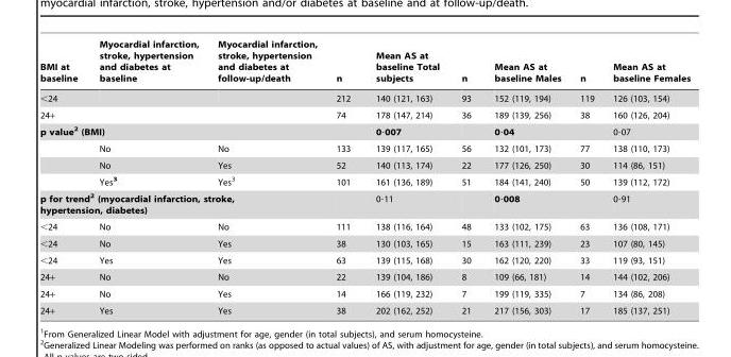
<table><thead><tr><td>BMI at baseline</td><td>Myocardial infarction, stroke, hypertension and diabetes at baseline</td><td>Myocardial infarction, stroke, hypertension and diabetes at follow-up/death</td><td>n</td><td>Mean AS at baseline Total subjects</td><td>n</td><td>Mean AS at baseline Males</td><td>n</td><td>Mean AS at baseline Females</td></tr></thead><tbody><tr><td>&lt;24</td><td></td><td></td><td>212</td><td>140 (121, 163)</td><td>93</td><td>152 (119, 194)</td><td>119</td><td>126 (103, 154)</td></tr><tr><td>24+</td><td></td><td></td><td>74</td><td>178 (147, 214)</td><td>36</td><td>189 (139, 256)</td><td>38</td><td>160 (126, 204)</td></tr><tr><td colspan="4">p value2 (BMI)</td><td>0·007</td><td></td><td>0·04</td><td></td><td>0·07</td></tr><tr><td></td><td>No</td><td>No</td><td>133</td><td>139 (117, 165)</td><td>56</td><td>132 (101, 173)</td><td>77</td><td>138 (110, 173)</td></tr><tr><td></td><td>No</td><td>Yes</td><td>52</td><td>140 (113, 174)</td><td>22</td><td>177 (126, 250)</td><td>30</td><td>114 (86, 151)</td></tr><tr><td></td><td>Yes<sup>3</sup></td><td>Yes<sup>3</sup></td><td>101</td><td>161 (136, 189)</td><td>51</td><td>184 (141, 240)</td><td>50</td><td>139 (112, 172)</td></tr><tr><td colspan="3">p for trend2 (myocardial infarction, stroke, hypertension, diabetes)</td><td></td><td>0·11</td><td></td><td>0·008</td><td></td><td>0·91</td></tr><tr><td>&lt;24</td><td>No</td><td>No</td><td>111</td><td>138 (116, 164)</td><td>48</td><td>133 (102, 175)</td><td>63</td><td>136 (108, 171)</td></tr><tr><td>&lt;24</td><td>No</td><td>Yes</td><td>38</td><td>130 (103, 165)</td><td>15</td><td>163 (111, 239)</td><td>23</td><td>107 (80, 145)</td></tr><tr><td>&lt;24</td><td>Yes</td><td>Yes</td><td>63</td><td>139 (115, 168)</td><td>30</td><td>162 (120, 220)</td><td>33</td><td>119 (93, 151)</td></tr><tr><td>24+</td><td>No</td><td>No</td><td>22</td><td>139 (104, 186)</td><td>8</td><td>109 (66, 181)</td><td>14</td><td>144 (102, 206)</td></tr><tr><td>24+</td><td>No</td><td>Yes</td><td>14</td><td>166 (119, 232)</td><td>7</td><td>199 (119, 335)</td><td>7</td><td>134 (86, 208)</td></tr><tr><td>24+</td><td>Yes</td><td>Yes</td><td>38</td><td>202 (162, 252)</td><td>21</td><td>217 (156, 303)</td><td>17</td><td>185 (137, 251)</td></tr></tbody></table>